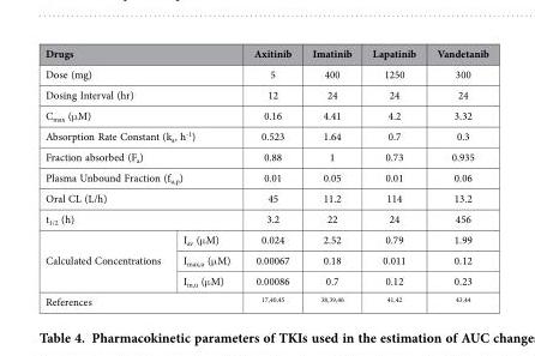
<table><thead><tr><td colspan="2">Drugs</td><td>Axitinib</td><td>Imatinib</td><td>Lapatinib</td><td>Vandetanib</td></tr></thead><tbody><tr><td colspan="2">Dose (mg)</td><td>5</td><td>400</td><td>1250</td><td>300</td></tr><tr><td colspan="2">Dosing Interval (hr)</td><td>12</td><td>24</td><td>24</td><td>24</td></tr><tr><td colspan="2">C<sub>max</sub> (μ M)</td><td>0.16</td><td>4.41</td><td>4.2</td><td>3.32</td></tr><tr><td colspan="2">Absorption Rate Constant (k<sub>a</sub>, h<sup>-1</sup>)</td><td>0.523</td><td>1.64</td><td>0.7</td><td>0.3</td></tr><tr><td colspan="2">Fraction absorbed (F<sub>a</sub>)</td><td>0.88</td><td>1</td><td>0.73</td><td>0.935</td></tr><tr><td colspan="2">Plasma Unbound Fraction (f<sub>u,p</sub>)</td><td>0.01</td><td>0.05</td><td>0.01</td><td>0.06</td></tr><tr><td colspan="2">Oral CL (L/h)</td><td>45</td><td>11.2</td><td>114</td><td>13.2</td></tr><tr><td colspan="2">t<sub>1/2</sub> (h)</td><td>3.2</td><td>22</td><td>24</td><td>456</td></tr><tr><td rowspan="3">Calculated Concentrations</td><td>I<sub>av</sub> (μ M)</td><td>0.024</td><td>2.52</td><td>0.79</td><td>1.99</td></tr><tr><td>I<sub>max,u</sub> (μ M)</td><td>0.00067</td><td>0.18</td><td>0.011</td><td>0.12</td></tr><tr><td>I<sub>in,u</sub> (μ M)</td><td>0.00086</td><td>0.7</td><td>0.12</td><td>0.23</td></tr><tr><td colspan="2">References</td><td>17,40,45</td><td>38,39,46</td><td>41,42</td><td>43,44</td></tr></tbody></table>